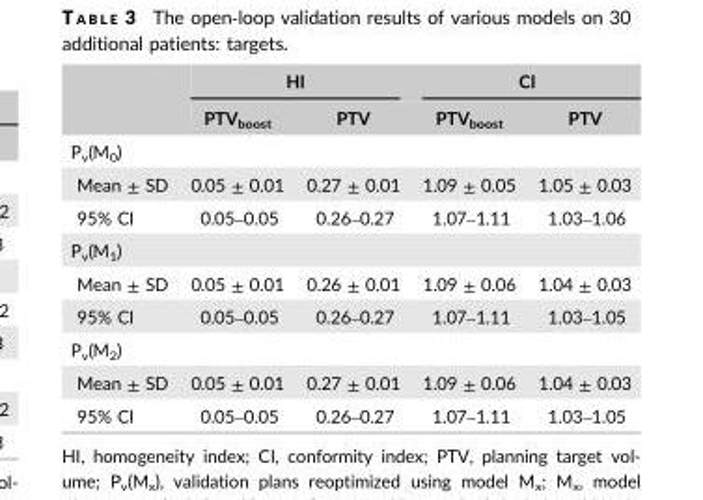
<table><thead><tr><td rowspan="2"></td><td colspan="2">HI</td><td colspan="2">CI</td></tr><tr><td>PTV<sub>boost</sub></td><td>PTV</td><td>PTV<sub>boost</sub></td><td>PTV</td></tr></thead><tbody><tr><td colspan="5">P<sub>v</sub>(M<sub>0</sub>)</td></tr><tr><td>Mean ± SD</td><td>0.05 ± 0.01</td><td>0.27 ± 0.01</td><td>1.09 ± 0.05</td><td>1.05 ± 0.03</td></tr><tr><td>95% CI</td><td>0.05–0.05</td><td>0.26–0.27</td><td>1.07–1.11</td><td>1.03–1.06</td></tr><tr><td colspan="5">P<sub>v</sub>(M<sub>1</sub>)</td></tr><tr><td>Mean ± SD</td><td>0.05 ± 0.01</td><td>0.26 ± 0.01</td><td>1.09 ± 0.06</td><td>1.04 ± 0.03</td></tr><tr><td>95% CI</td><td>0.05–0.05</td><td>0.26–0.27</td><td>1.07–1.11</td><td>1.03–1.05</td></tr><tr><td colspan="5">P<sub>v</sub>(M<sub>2</sub>)</td></tr><tr><td>Mean ± SD</td><td>0.05 ± 0.01</td><td>0.27 ± 0.01</td><td>1.09 ± 0.06</td><td>1.04 ± 0.03</td></tr><tr><td>95% CI</td><td>0.05–0.05</td><td>0.26–0.27</td><td>1.07–1.11</td><td>1.03–1.05</td></tr></tbody></table>